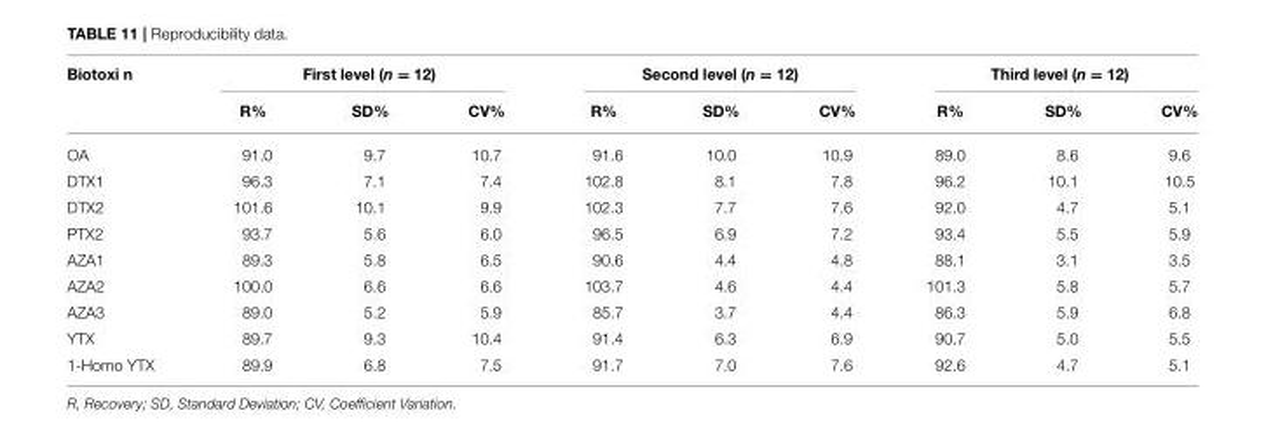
<table><thead><tr><td rowspan="2">Biotoxi n</td><td colspan="3">First level (n = 12)</td><td colspan="3">Second level (n = 12)</td><td colspan="3">Third level (n = 12)</td></tr><tr><td>R%</td><td>SD%</td><td>CV%</td><td>R%</td><td>SD%</td><td>CV%</td><td>R%</td><td>SD%</td><td>CV%</td></tr></thead><tbody><tr><td>OA</td><td>91.0</td><td>9.7</td><td>10.7</td><td>91.6</td><td>10.0</td><td>10.9</td><td>89.0</td><td>8.6</td><td>9.6</td></tr><tr><td>DTX1</td><td>96.3</td><td>7.1</td><td>7.4</td><td>102.8</td><td>8.1</td><td>7.8</td><td>96.2</td><td>10.1</td><td>10.5</td></tr><tr><td>DTX2</td><td>101.6</td><td>10.1</td><td>9.9</td><td>102.3</td><td>7.7</td><td>7.6</td><td>92.0</td><td>4.7</td><td>5.1</td></tr><tr><td>PTX2</td><td>93.7</td><td>5.6</td><td>6.0</td><td>96.5</td><td>6.9</td><td>7.2</td><td>93.4</td><td>5.5</td><td>5.9</td></tr><tr><td>AZA1</td><td>89.3</td><td>5.8</td><td>6.5</td><td>90.6</td><td>4.4</td><td>4.8</td><td>88.1</td><td>3.1</td><td>3.5</td></tr><tr><td>AZA2</td><td>100.0</td><td>6.6</td><td>6.6</td><td>103.7</td><td>4.6</td><td>4.4</td><td>101.3</td><td>5.8</td><td>5.7</td></tr><tr><td>AZA3</td><td>89.0</td><td>5.2</td><td>5.9</td><td>85.7</td><td>3.7</td><td>4.4</td><td>86.3</td><td>5.9</td><td>6.8</td></tr><tr><td>YTX</td><td>89.7</td><td>9.3</td><td>10.4</td><td>91.4</td><td>6.3</td><td>6.9</td><td>90.7</td><td>5.0</td><td>5.5</td></tr><tr><td>1-Homo YTX</td><td>89.9</td><td>6.8</td><td>7.5</td><td>91.7</td><td>7.0</td><td>7.6</td><td>92.6</td><td>4.7</td><td>5.1</td></tr></tbody></table>